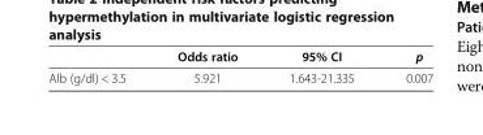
<table><thead><tr><td></td><td>Odds ratio</td><td>95% CI</td><td>p</td></tr></thead><tbody><tr><td>Alb (g/dl) &lt; 3.5</td><td>5.921</td><td>1.643-21.335</td><td>0.007</td></tr></tbody></table>